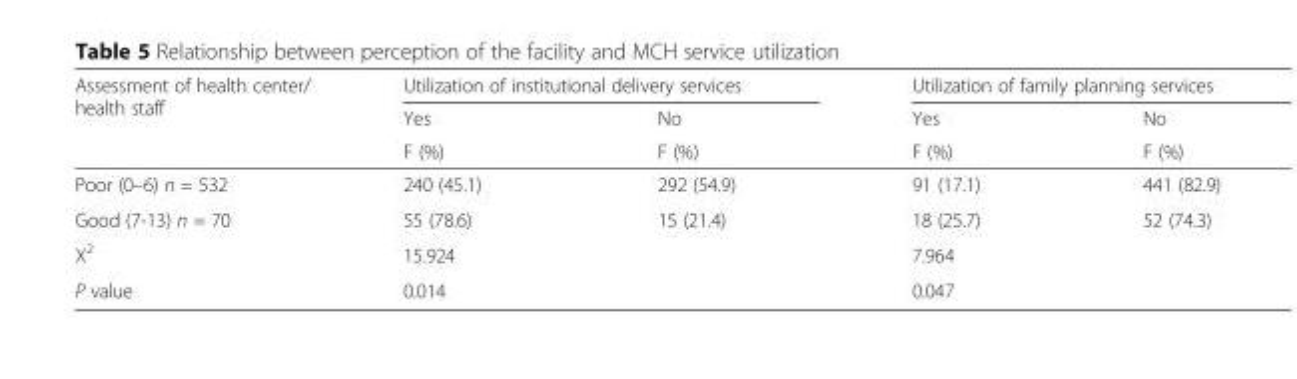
<table><thead><tr><td rowspan="3">Assessment of health center/ health staff</td><td colspan="2">Utilization of institutional delivery services</td><td colspan="2">Utilization of family planning services</td></tr><tr><td rowspan="2">Yes F (%)</td><td rowspan="2">No F (%)</td><td rowspan="2">Yes F (%)</td><td rowspan="2">No F (%)</td></tr><tr></tr></thead><tbody><tr><td>Poor (0–6) n = 532</td><td>240 (45.1)</td><td>292 (54.9)</td><td>91 (17.1)</td><td>441 (82.9)</td></tr><tr><td>Good (7-13) n = 70</td><td>55 (78.6)</td><td>15 (21.4)</td><td>18 (25.7)</td><td>52 (74.3)</td></tr><tr><td>X<sup>2</sup></td><td colspan="2">15.924</td><td colspan="2">7.964</td></tr><tr><td>P value</td><td colspan="2">0.014</td><td colspan="2">0.047</td></tr></tbody></table>